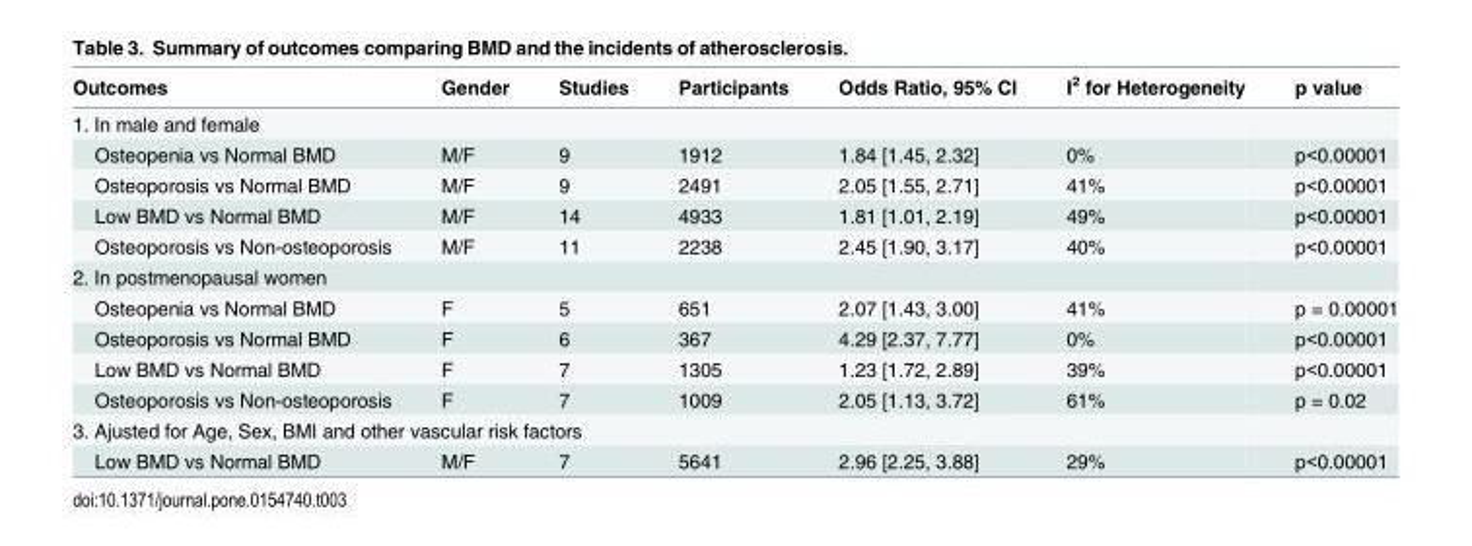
<table><thead><tr><td>Outcomes</td><td>Gender</td><td>Studies</td><td>Participants</td><td>Odds Ratio, 95% CI</td><td>I<sup>2</sup> for Heterogeneity</td><td>p value</td></tr></thead><tbody><tr><td colspan="7">1. In male and female</td></tr><tr><td>Osteopenia vs Normal BMD</td><td>M/F</td><td>9</td><td>1912</td><td>1.84 [1.45, 2.32]</td><td>0%</td><td>p&lt;0.00001</td></tr><tr><td>Osteoporosis vs Normal BMD</td><td>M/F</td><td>9</td><td>2491</td><td>2.05 [1.55, 2.71]</td><td>41%</td><td>p&lt;0.00001</td></tr><tr><td>Low BMD vs Normal BMD</td><td>M/F</td><td>14</td><td>4933</td><td>1.81 [1.01, 2.19]</td><td>49%</td><td>p&lt;0.00001</td></tr><tr><td>Osteoporosis vs Non-osteoporosis</td><td>M/F</td><td>11</td><td>2238</td><td>2.45 [1.90, 3.17]</td><td>40%</td><td>p&lt;0.00001</td></tr><tr><td colspan="7">2. In postmenopausal women</td></tr><tr><td>Osteopenia vs Normal BMD</td><td>F</td><td>5</td><td>651</td><td>2.07 [1.43, 3.00]</td><td>41%</td><td>p = 0.00001</td></tr><tr><td>Osteoporosis vs Normal BMD</td><td>F</td><td>6</td><td>367</td><td>4.29 [2.37, 7.77]</td><td>0%</td><td>p&lt;0.00001</td></tr><tr><td>Low BMD vs Normal BMD</td><td>F</td><td>7</td><td>1305</td><td>1.23 [1.72, 2.89]</td><td>39%</td><td>p&lt;0.00001</td></tr><tr><td>Osteoporosis vs Non-osteoporosis</td><td>F</td><td>7</td><td>1009</td><td>2.05 [1.13, 3.72]</td><td>61%</td><td>p = 0.02</td></tr><tr><td colspan="7">3. Ajusted for Age, Sex, BMI and other vascular risk factors</td></tr><tr><td>Low BMD vs Normal BMD</td><td>M/F</td><td>7</td><td>5641</td><td>2.96 [2.25, 3.88]</td><td>29%</td><td>p&lt;0.00001</td></tr></tbody></table>